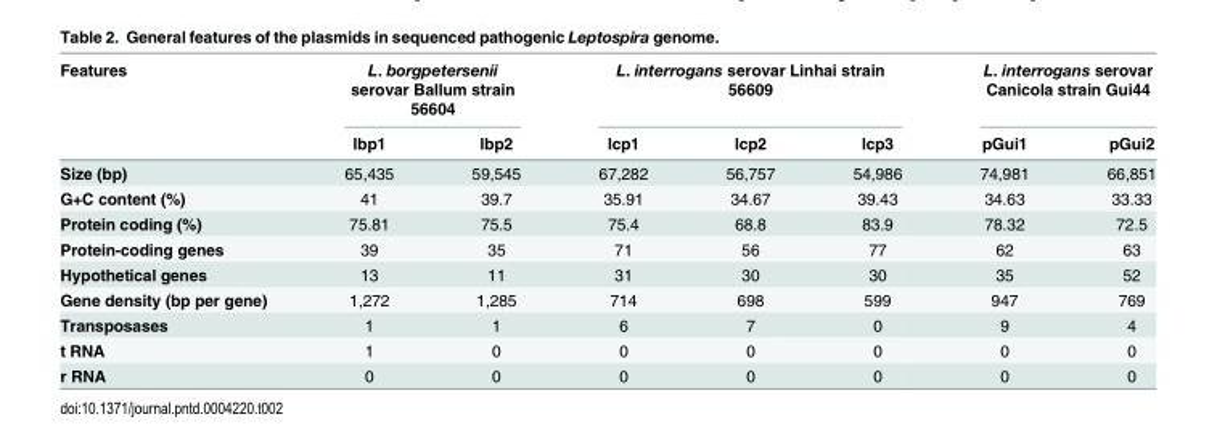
<table><thead><tr><td rowspan="2">Features</td><td colspan="2">L. borgpetersenii serovar Ballum strain 56604</td><td colspan="3">L. interrogans serovar Linhai strain 56609</td><td colspan="2">L. interrogans serovar Canicola strain Gui44</td></tr><tr><td>lbp1</td><td>lbp2</td><td>lcp1</td><td>lcp2</td><td>lcp3</td><td>pGui1</td><td>pGui2</td></tr></thead><tbody><tr><td>Size (bp)</td><td>65,435</td><td>59,545</td><td>67,282</td><td>56,757</td><td>54,986</td><td>74,981</td><td>66,851</td></tr><tr><td>G+C content (%)</td><td>41</td><td>39.7</td><td>35.91</td><td>34.67</td><td>39.43</td><td>34.63</td><td>33.33</td></tr><tr><td>Protein coding (%)</td><td>75.81</td><td>75.5</td><td>75.4</td><td>68.8</td><td>83.9</td><td>78.32</td><td>72.5</td></tr><tr><td>Protein-coding genes</td><td>39</td><td>35</td><td>71</td><td>56</td><td>77</td><td>62</td><td>63</td></tr><tr><td>Hypothetical genes</td><td>13</td><td>11</td><td>31</td><td>30</td><td>30</td><td>35</td><td>52</td></tr><tr><td>Gene density (bp per gene)</td><td>1,272</td><td>1,285</td><td>714</td><td>698</td><td>599</td><td>947</td><td>769</td></tr><tr><td>Transposases</td><td>1</td><td>1</td><td>6</td><td>7</td><td>0</td><td>9</td><td>4</td></tr><tr><td>t RNA</td><td>1</td><td>0</td><td>0</td><td>0</td><td>0</td><td>0</td><td>0</td></tr><tr><td>r RNA</td><td>0</td><td>0</td><td>0</td><td>0</td><td>0</td><td>0</td><td>0</td></tr></tbody></table>